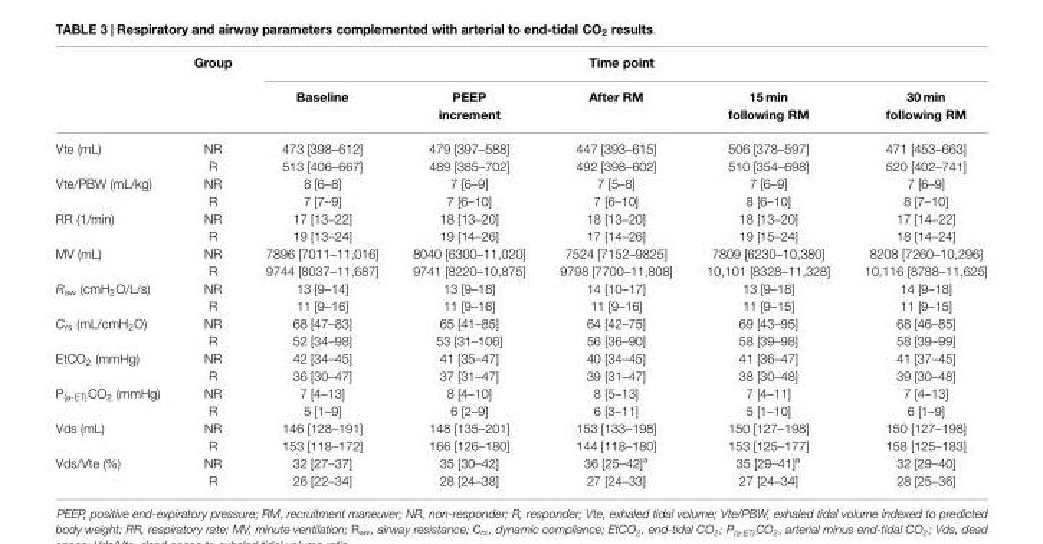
<table><thead><tr><td rowspan="2"></td><td rowspan="2">Group</td><td colspan="5">Time point</td></tr><tr><td>Baseline</td><td>PEEP increment</td><td>After RM</td><td>15 min following RM</td><td>30 min following RM</td></tr></thead><tbody><tr><td rowspan="2">Vte (mL)</td><td>NR</td><td>473 [398–612]</td><td>479 [397–588]</td><td>447 [393–615]</td><td>506 [378–597]</td><td>471 [453–663]</td></tr><tr><td>R</td><td>513 [406–667]</td><td>489 [385–702]</td><td>492 [398–602]</td><td>510 [354–698]</td><td>520 [402–741]</td></tr><tr><td rowspan="2">Vte/PBW (mL/kg)</td><td>NR</td><td>8 [6–8]</td><td>7 [6–9]</td><td>7 [5–8]</td><td>7 [6–9]</td><td>7 [6–9]</td></tr><tr><td>R</td><td>7 [7–9]</td><td>7 [6–10]</td><td>7 [6–10]</td><td>8 [6–10]</td><td>8 [7–10]</td></tr><tr><td rowspan="2">RR (1/min)</td><td>NR</td><td>17 [13–22]</td><td>18 [13–20]</td><td>18 [13–20]</td><td>18 [13–20]</td><td>17 [14–22]</td></tr><tr><td>R</td><td>19 [13–24]</td><td>19 [14–26]</td><td>17 [14–26]</td><td>19 [15–24]</td><td>18 [14–24]</td></tr><tr><td rowspan="2">MV (mL)</td><td>NR</td><td>7896 [7011–11,016]</td><td>8040 [6300–11,020]</td><td>7524 [7152–9825]</td><td>7809 [6230–10,380]</td><td>8208 [7260–10,296]</td></tr><tr><td>R</td><td>9744 [8037–11,687]</td><td>9741 [8220–10,875]</td><td>9798 [7700–11,808]</td><td>10,101 [8328–11,328]</td><td>10,116 [8788–11,625]</td></tr><tr><td rowspan="2">R<sub>aw</sub> (cmH<sub>2</sub>O/L/s)</td><td>NR</td><td>13 [9–14]</td><td>13 [9–18]</td><td>14 [10–17]</td><td>13 [9–18]</td><td>14 [9–18]</td></tr><tr><td>R</td><td>11 [9–16]</td><td>11 [9–16]</td><td>11 [9–16]</td><td>11 [9–15]</td><td>11 [9–15]</td></tr><tr><td rowspan="2">C<sub>rs</sub> (mL/cmH<sub>2</sub>O)</td><td>NR</td><td>68 [47–83]</td><td>65 [41–85]</td><td>64 [42–75]</td><td>69 [43–95]</td><td>68 [46–85]</td></tr><tr><td>R</td><td>52 [34–98]</td><td>53 [31–106]</td><td>56 [36–90]</td><td>58 [39–98]</td><td>58 [39–99]</td></tr><tr><td rowspan="2">EtCO<sub>2</sub> (mmHg)</td><td>NR</td><td>42 [34–45]</td><td>41 [35–47]</td><td>40 [34–45]</td><td>41 [36–47]</td><td>41 [37–45]</td></tr><tr><td>R</td><td>36 [30–47]</td><td>37 [31–47]</td><td>39 [31–47]</td><td>38 [30–48]</td><td>39 [30–48]</td></tr><tr><td rowspan="2">P<sub>(a-ET)</sub>CO<sub>2</sub> (mmHg)</td><td>NR</td><td>7 [4–13]</td><td>8 [4–10]</td><td>8 [5–13]</td><td>7 [4–11]</td><td>7 [4–13]</td></tr><tr><td>R</td><td>5 [1–9]</td><td>6 [2–9]</td><td>6 [3–11]</td><td>5 [1–10]</td><td>6 [1–9]</td></tr><tr><td rowspan="2">Vds (mL)</td><td>NR</td><td>146 [128–191]</td><td>148 [135–201]</td><td>153 [133–198]</td><td>150 [127–198]</td><td>150 [127–198]</td></tr><tr><td>R</td><td>153 [118–172]</td><td>166 [126–180]</td><td>144 [118–180]</td><td>153 [125–177]</td><td>158 [125–183]</td></tr><tr><td rowspan="2">Vds/Vte (%)</td><td>NR</td><td>32 [27–37]</td><td>35 [30–42]</td><td>36 [25–42]<sup>a</sup></td><td>35 [29–41]<sup>a</sup></td><td>32 [29–40]</td></tr><tr><td>R</td><td>26 [22–34]</td><td>28 [24–38]</td><td>27 [24–33]</td><td>27 [24–34]</td><td>28 [25–36]</td></tr></tbody></table>